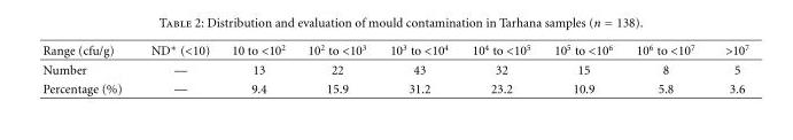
<table><thead><tr><td>Range (cfu/g)</td><td>ND∗ (&lt;10)</td><td>10 to &lt;10<sup>2</sup></td><td>10<sup>2</sup> to &lt;10<sup>3</sup></td><td>10<sup>3</sup> to &lt;10<sup>4</sup></td><td>10<sup>4</sup> to &lt;10<sup>5</sup></td><td>10<sup>5</sup> to &lt;10<sup>6</sup></td><td>10<sup>6</sup> to &lt;10<sup>7</sup></td><td>&gt;10<sup>7</sup></td></tr></thead><tbody><tr><td>Number</td><td>—</td><td>13</td><td>22</td><td>43</td><td>32</td><td>15</td><td>8</td><td>5</td></tr><tr><td>Percentage (%)</td><td>—</td><td>9.4</td><td>15.9</td><td>31.2</td><td>23.2</td><td>10.9</td><td>5.8</td><td>3.6</td></tr></tbody></table>